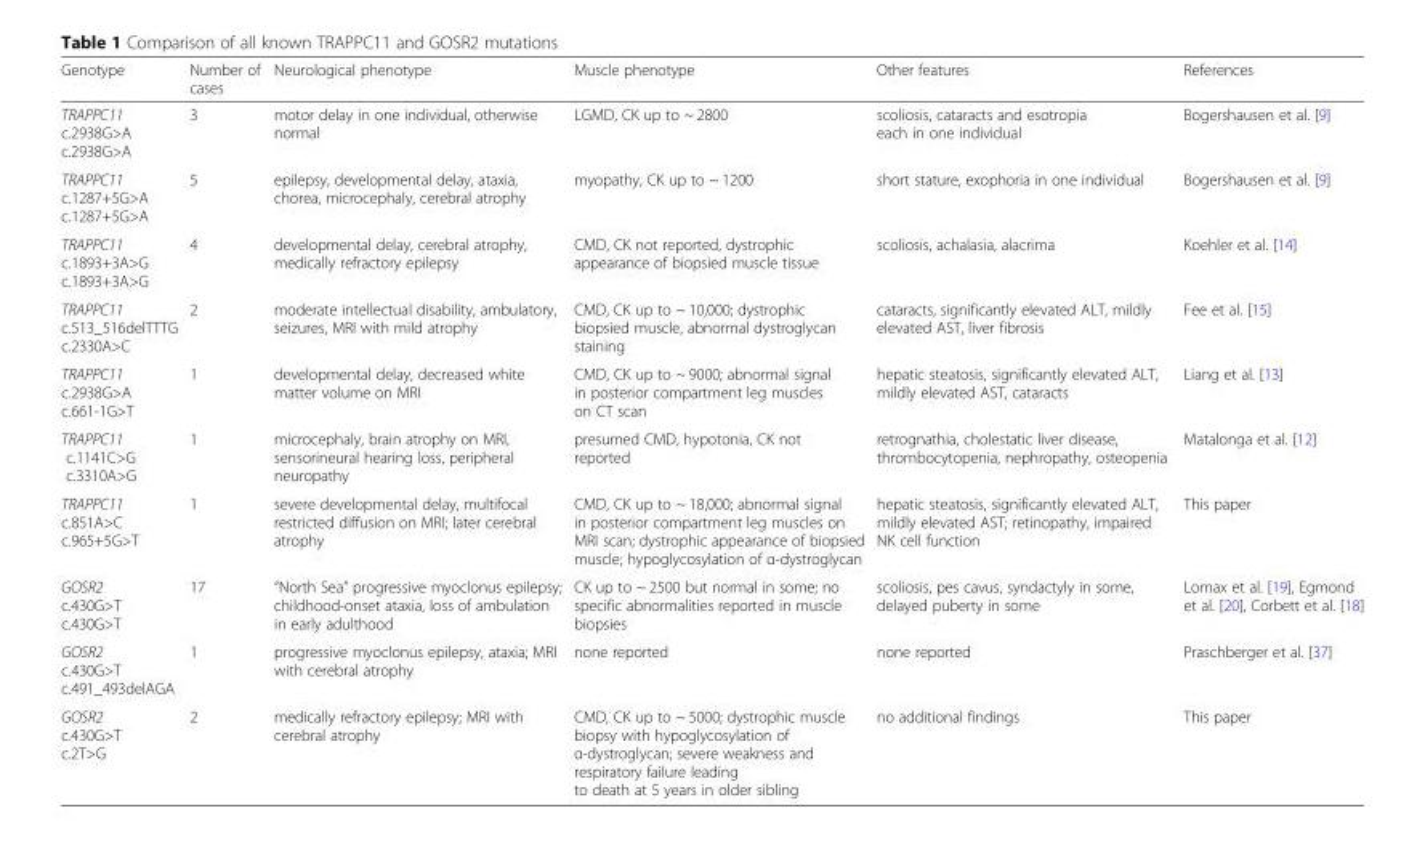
<table><thead><tr><td>Genotype</td><td>Number of cases</td><td>Neurological phenotype</td><td>Muscle phenotype</td><td>Other features</td><td>References</td></tr></thead><tbody><tr><td>TRAPPC11 c.2938G&gt;A c.2938G&gt;A</td><td>3</td><td>motor delay in one individual, otherwise normal</td><td>LGMD, CK up to ~ 2800</td><td>scoliosis, cataracts and esotropia each in one individual</td><td>Bogershausen et al. [9]</td></tr><tr><td>TRAPPC11 c.1287+5G&gt;A c.1287+5G&gt;A</td><td>5</td><td>epilepsy, developmental delay, ataxia, chorea, microcephaly, cerebral atrophy</td><td>myopathy, CK up to ~ 1200</td><td>short stature, exophoria in one individual</td><td>Bogershausen et al. [9]</td></tr><tr><td>TRAPPC11 c.1893+3A&gt;G c.1893+3A&gt;G</td><td>4</td><td>developmental delay, cerebral atrophy, medically refractory epilepsy</td><td>CMD, CK not reported, dystrophic appearance of biopsied muscle tissue</td><td>scoliosis, achalasia, alacrima</td><td>Koehler et al. [14]</td></tr><tr><td>TRAPPC11 c.513_516delTTTG c.2330A&gt;C</td><td>2</td><td>moderate intellectual disability, ambulatory, seizures, MRI with mild atrophy</td><td>CMD, CK up to ~ 10,000; dystrophic biopsied muscle, abnormal dystroglycan staining</td><td>cataracts, significantly elevated ALT, mildly elevated AST, liver fibrosis</td><td>Fee et al. [15]</td></tr><tr><td>TRAPPC11 c.2938G&gt;A c.661-1G&gt;T</td><td>1</td><td>developmental delay, decreased white matter volume on MRI</td><td>CMD, CK up to ~ 9000; abnormal signal in posterior compartment leg muscles on CT scan</td><td>hepatic steatosis, significantly elevated ALT, mildly elevated AST, cataracts</td><td>Liang et al. [13]</td></tr><tr><td>TRAPPC11 c.1141C&gt;G c.3310A&gt;G</td><td>1</td><td>microcephaly, brain atrophy on MRI, sensorineural hearing loss, peripheral neuropathy</td><td>presumed CMD, hypotonia, CK not reported</td><td>retrognathia, cholestatic liver disease, thrombocytopenia, nephropathy, osteopenia</td><td>Matalonga et al. [12]</td></tr><tr><td>TRAPPC11 c.851A&gt;C c.965+5G&gt;T</td><td>1</td><td>severe developmental delay, multifocal restricted diffusion on MRI; later cerebral atrophy</td><td>CMD, CK up to ~ 18,000; abnormal signal in posterior compartment leg muscles on MRI scan; dystrophic appearance of biopsied muscle; hypoglycosylation of α-dystroglycan</td><td>hepatic steatosis, significantly elevated ALT, mildly elevated AST; retinopathy, impaired NK cell function</td><td>This paper</td></tr><tr><td>GOSR2 c.430G&gt;T c.430G&gt;T</td><td>17</td><td>“North Sea” progressive myoclonus epilepsy; childhood-onset ataxia, loss of ambulation in early adulthood</td><td>CK up to ~ 2500 but normal in some; no specific abnormalities reported in muscle biopsies</td><td>scoliosis, pes cavus, syndactyly in some, delayed puberty in some</td><td>Lomax et al. [19], Egmond et al. [20], Corbett et al. [18]</td></tr><tr><td>GOSR2 c.430G&gt;T c.491_493delAGA</td><td>1</td><td>progressive myoclonus epilepsy, ataxia; MRI with cerebral atrophy</td><td>none reported</td><td>none reported</td><td>Praschberger et al. [37]</td></tr><tr><td>GOSR2 c.430G&gt;T c.2T&gt;G</td><td>2</td><td>medically refractory epilepsy; MRI with cerebral atrophy</td><td>CMD, CK up to ~ 5000; dystrophic muscle biopsy with hypoglycosylation of α-dystroglycan; severe weakness and respiratory failure leading to death at 5 years in older sibling</td><td>no additional findings</td><td>This paper</td></tr></tbody></table>